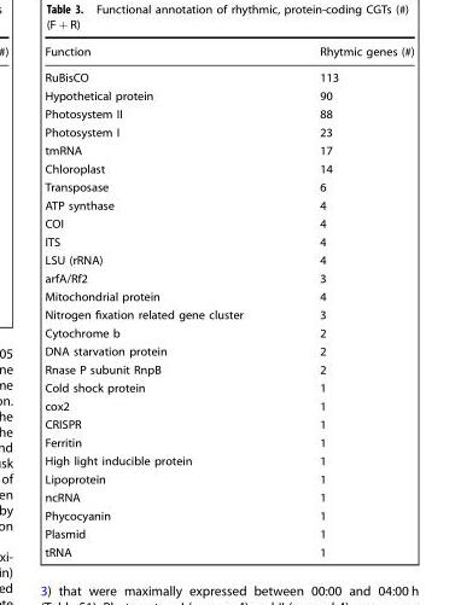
<table><thead><tr><td>Function</td><td>Rhytmic genes (#)</td></tr></thead><tbody><tr><td>RuBisCO</td><td>113</td></tr><tr><td>Hypothetical protein</td><td>90</td></tr><tr><td>Photosystem II</td><td>88</td></tr><tr><td>Photosystem I</td><td>23</td></tr><tr><td>tmRNA</td><td>17</td></tr><tr><td>Chloroplast</td><td>14</td></tr><tr><td>Transposase</td><td>6</td></tr><tr><td>ATP synthase</td><td>4</td></tr><tr><td>COI</td><td>4</td></tr><tr><td>ITS</td><td>4</td></tr><tr><td>LSU (rRNA)</td><td>4</td></tr><tr><td>arfA/Rf2</td><td>3</td></tr><tr><td>Mitochondrial protein</td><td>4</td></tr><tr><td>Nitrogen fixation related gene cluster</td><td>3</td></tr><tr><td>Cytochrome b</td><td>2</td></tr><tr><td>DNA starvation protein</td><td>2</td></tr><tr><td>Rnase P subunit RnpB</td><td>2</td></tr><tr><td>Cold shock protein</td><td>1</td></tr><tr><td>cox2</td><td>1</td></tr><tr><td>CRISPR</td><td>1</td></tr><tr><td>Ferritin</td><td>1</td></tr><tr><td>High light inducible protein</td><td>1</td></tr><tr><td>Lipoprotein</td><td>1</td></tr><tr><td>ncRNA</td><td>1</td></tr><tr><td>Phycocyanin</td><td>1</td></tr><tr><td>Plasmid</td><td>1</td></tr><tr><td>tRNA</td><td>1</td></tr></tbody></table>